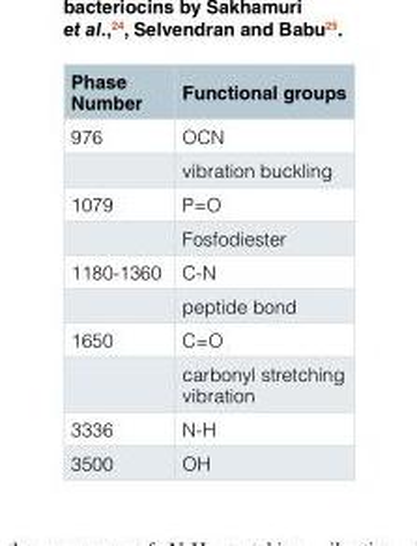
<table><thead><tr><td>Phase Number</td><td>Functional groups</td></tr></thead><tbody><tr><td rowspan="2">976</td><td>OCN</td></tr><tr><td>vibration buckling</td></tr><tr><td rowspan="2">1079</td><td>P=O</td></tr><tr><td>Fosfodiester</td></tr><tr><td rowspan="2">1180-1360</td><td>C-N</td></tr><tr><td>peptide bond</td></tr><tr><td rowspan="2">1650</td><td>C=O</td></tr><tr><td>carbonyl stretching vibration</td></tr><tr><td>3336</td><td>N-H</td></tr><tr><td>3500</td><td>OH</td></tr></tbody></table>